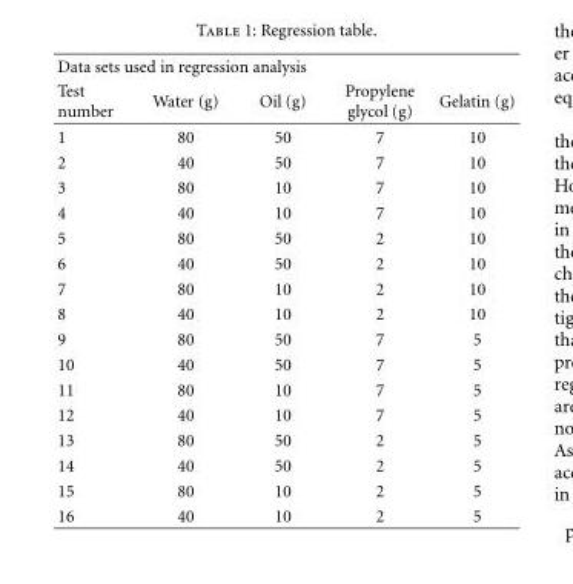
<table><thead><tr><td colspan="5">Data sets used in regression analysis</td></tr><tr><td>Test number</td><td>Water (g)</td><td>Oil (g)</td><td>Propylene glycol (g)</td><td>Gelatin (g)</td></tr></thead><tbody><tr><td>1</td><td>80</td><td>50</td><td>7</td><td>10</td></tr><tr><td>2</td><td>40</td><td>50</td><td>7</td><td>10</td></tr><tr><td>3</td><td>80</td><td>10</td><td>7</td><td>10</td></tr><tr><td>4</td><td>40</td><td>10</td><td>7</td><td>10</td></tr><tr><td>5</td><td>80</td><td>50</td><td>2</td><td>10</td></tr><tr><td>6</td><td>40</td><td>50</td><td>2</td><td>10</td></tr><tr><td>7</td><td>80</td><td>10</td><td>2</td><td>10</td></tr><tr><td>8</td><td>40</td><td>10</td><td>2</td><td>10</td></tr><tr><td>9</td><td>80</td><td>50</td><td>7</td><td>5</td></tr><tr><td>10</td><td>40</td><td>50</td><td>7</td><td>5</td></tr><tr><td>11</td><td>80</td><td>10</td><td>7</td><td>5</td></tr><tr><td>12</td><td>40</td><td>10</td><td>7</td><td>5</td></tr><tr><td>13</td><td>80</td><td>50</td><td>2</td><td>5</td></tr><tr><td>14</td><td>40</td><td>50</td><td>2</td><td>5</td></tr><tr><td>15</td><td>80</td><td>10</td><td>2</td><td>5</td></tr><tr><td>16</td><td>40</td><td>10</td><td>2</td><td>5</td></tr></tbody></table>